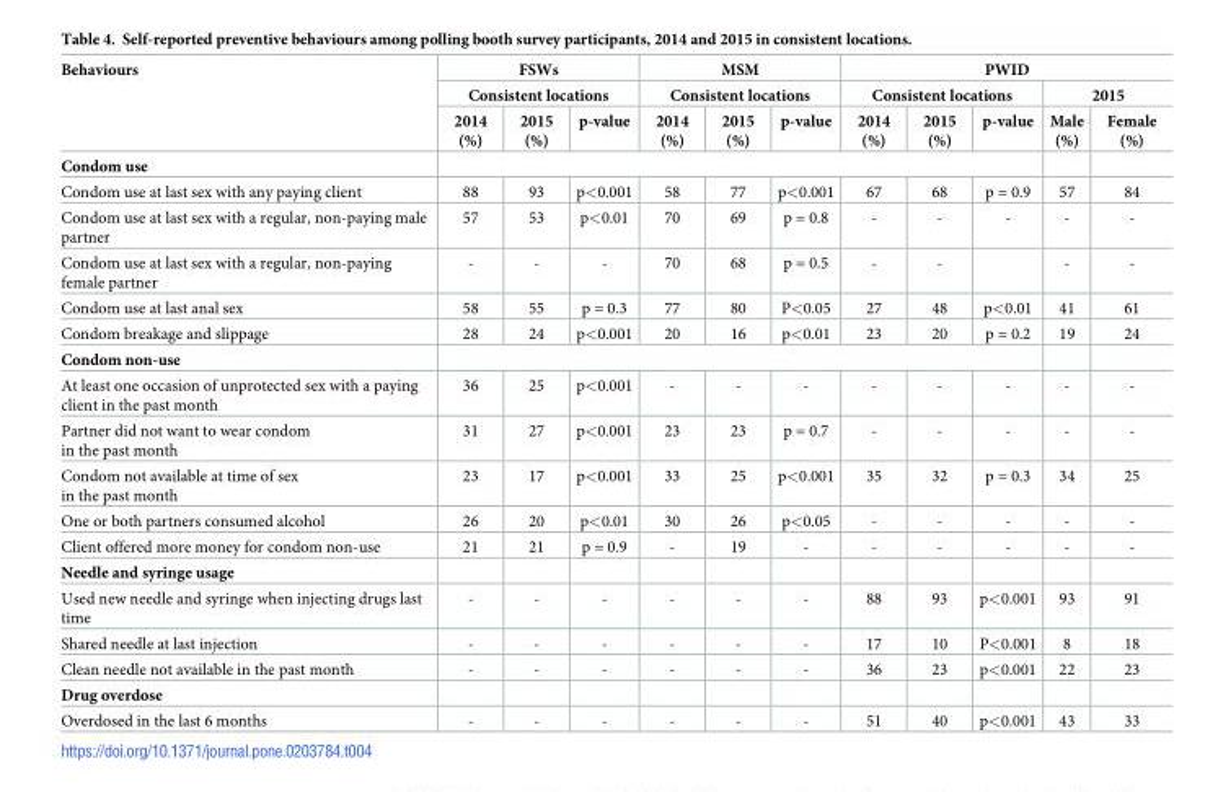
<table><thead><tr><td rowspan="3">Behaviours</td><td rowspan="2" colspan="3">FSWs Consistent locations</td><td rowspan="2" colspan="3">MSM Consistent locations</td><td colspan="5">PWID</td></tr><tr><td colspan="3">Consistent locations</td><td colspan="2">2015</td></tr><tr><td>2014 (%)</td><td>2015 (%)</td><td>p-value</td><td>2014 (%)</td><td>2015 (%)</td><td>p-value</td><td>2014 (%)</td><td>2015 (%)</td><td>p-value</td><td>Male (%)</td><td>Female (%)</td></tr></thead><tbody><tr><td colspan="12">Condom use</td></tr><tr><td>Condom use at last sex with any paying client</td><td>88</td><td>93</td><td>p&lt;0.001</td><td>58</td><td>77</td><td>p&lt;0.001</td><td>67</td><td>68</td><td>p = 0.9</td><td>57</td><td>84</td></tr><tr><td>Condom use at last sex with a regular, non-paying male partner</td><td>57</td><td>53</td><td>p&lt;0.01</td><td>70</td><td>69</td><td>p = 0.8</td><td>-</td><td>-</td><td>-</td><td>-</td><td>-</td></tr><tr><td>Condom use at last sex with a regular, non-paying female partner</td><td>-</td><td>-</td><td>-</td><td>70</td><td>68</td><td>p = 0.5</td><td>-</td><td>-</td><td></td><td>-</td><td>-</td></tr><tr><td>Condom use at last anal sex</td><td>58</td><td>55</td><td>p = 0.3</td><td>77</td><td>80</td><td>P&lt;0.05</td><td>27</td><td>48</td><td>p&lt;0.01</td><td>41</td><td>61</td></tr><tr><td>Condom breakage and slippage</td><td>28</td><td>24</td><td>p&lt;0.001</td><td>20</td><td>16</td><td>p&lt;0.01</td><td>23</td><td>20</td><td>p = 0.2</td><td>19</td><td>24</td></tr><tr><td colspan="12">Condom non-use</td></tr><tr><td>At least one occasion of unprotected sex with a paying client in the past month</td><td>36</td><td>25</td><td>p&lt;0.001</td><td>-</td><td>-</td><td>-</td><td>-</td><td>-</td><td>-</td><td>-</td><td>-</td></tr><tr><td>Partner did not want to wear condom in the past month</td><td>31</td><td>27</td><td>p&lt;0.001</td><td>23</td><td>23</td><td>p = 0.7</td><td>-</td><td>-</td><td>-</td><td>-</td><td>-</td></tr><tr><td>Condom not available at time of sex in the past month</td><td>23</td><td>17</td><td>p&lt;0.001</td><td>33</td><td>25</td><td>p&lt;0.001</td><td>35</td><td>32</td><td>p = 0.3</td><td>34</td><td>25</td></tr><tr><td>One or both partners consumed alcohol</td><td>26</td><td>20</td><td>p&lt;0.01</td><td>30</td><td>26</td><td>p&lt;0.05</td><td>-</td><td>-</td><td>-</td><td>-</td><td>-</td></tr><tr><td>Client offered more money for condom non-use</td><td>21</td><td>21</td><td>p = 0.9</td><td>-</td><td>19</td><td>-</td><td>-</td><td>-</td><td>-</td><td>-</td><td>-</td></tr><tr><td colspan="12">Needle and syringe usage</td></tr><tr><td>Used new needle and syringe when injecting drugs last time</td><td>-</td><td>-</td><td>-</td><td>-</td><td>-</td><td>-</td><td>88</td><td>93</td><td>p&lt;0.001</td><td>93</td><td>91</td></tr><tr><td>Shared needle at last injection</td><td>-</td><td>-</td><td>-</td><td>-</td><td>-</td><td>-</td><td>17</td><td>10</td><td>P&lt;0.001</td><td>8</td><td>18</td></tr><tr><td>Clean needle not available in the past month</td><td>-</td><td>-</td><td>-</td><td>-</td><td>-</td><td>-</td><td>36</td><td>23</td><td>p&lt;0.001</td><td>22</td><td>23</td></tr><tr><td colspan="12">Drug overdose</td></tr><tr><td>Overdosed in the last 6 months</td><td>-</td><td>-</td><td>-</td><td>-</td><td>-</td><td>-</td><td>51</td><td>40</td><td>p&lt;0.001</td><td>43</td><td>33</td></tr></tbody></table>